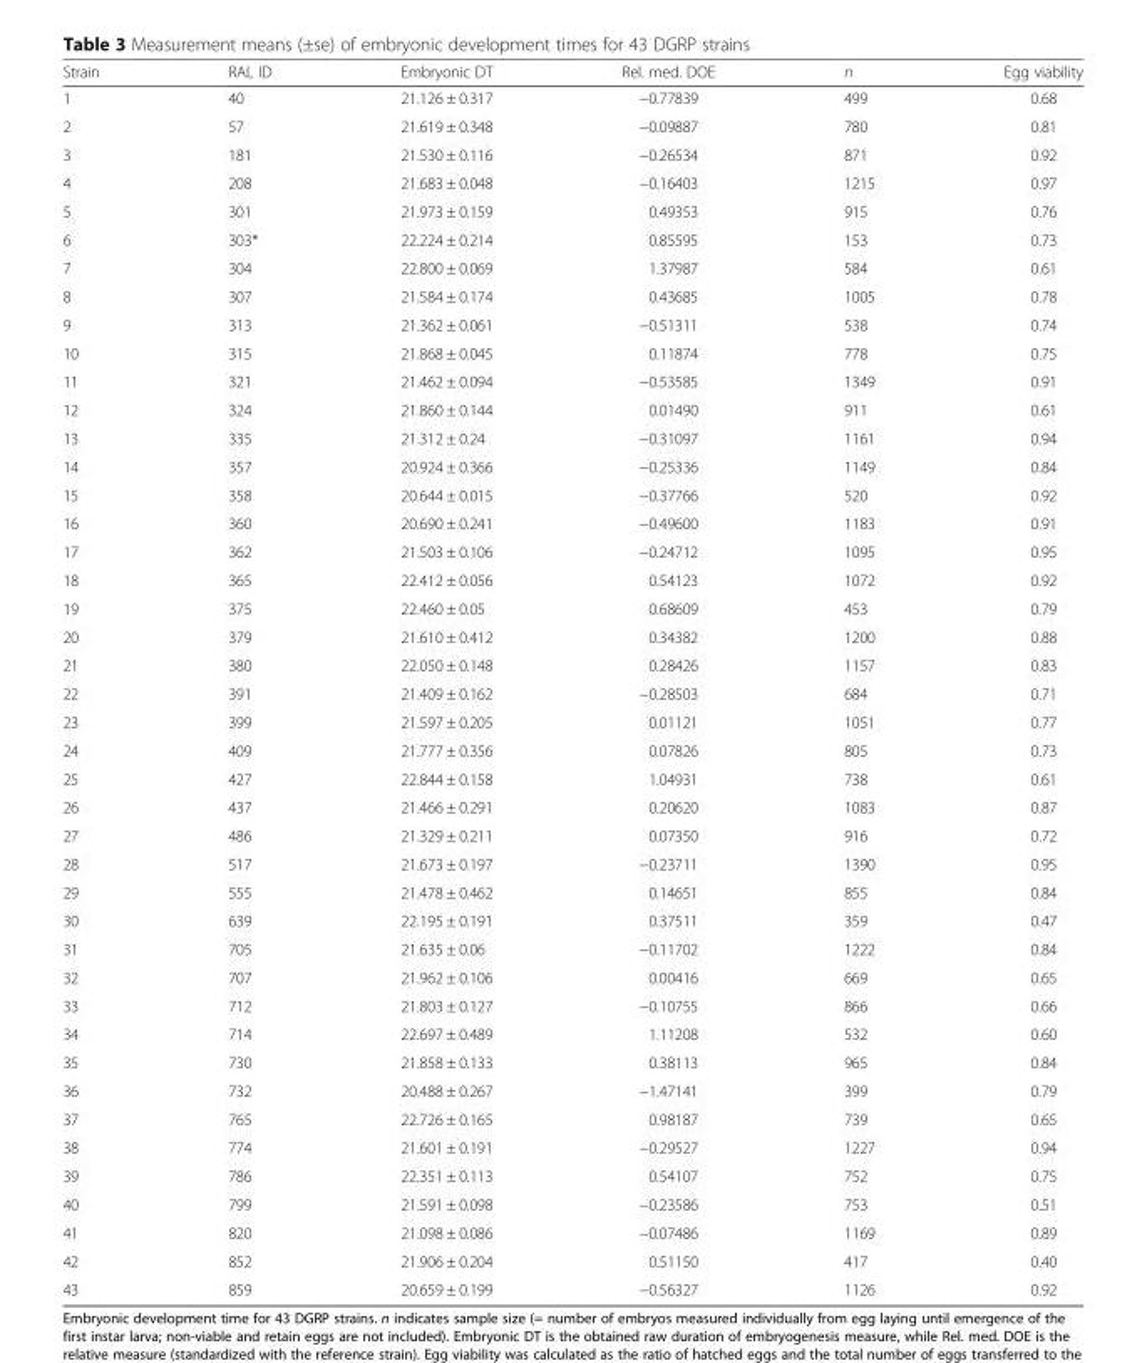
<table><thead><tr><td>Strain</td><td>RAL ID</td><td>Embryonic DT</td><td>Rel. med. DOE</td><td>n</td><td>Egg viability</td></tr></thead><tbody><tr><td>1</td><td>40</td><td>21.126 ± 0.317</td><td>−0.77839</td><td>499</td><td>0.68</td></tr><tr><td>2</td><td>57</td><td>21.619 ± 0.348</td><td>−0.09887</td><td>780</td><td>0.81</td></tr><tr><td>3</td><td>181</td><td>21.530 ± 0.116</td><td>−0.26534</td><td>871</td><td>0.92</td></tr><tr><td>4</td><td>208</td><td>21.683 ± 0.048</td><td>−0.16403</td><td>1215</td><td>0.97</td></tr><tr><td>5</td><td>301</td><td>21.973 ± 0.159</td><td>0.49353</td><td>915</td><td>0.76</td></tr><tr><td>6</td><td>303*</td><td>22.224 ± 0.214</td><td>0.85595</td><td>153</td><td>0.73</td></tr><tr><td>7</td><td>304</td><td>22.800 ± 0.069</td><td>1.37987</td><td>584</td><td>0.61</td></tr><tr><td>8</td><td>307</td><td>21.584 ± 0.174</td><td>0.43685</td><td>1005</td><td>0.78</td></tr><tr><td>9</td><td>313</td><td>21.362 ± 0.061</td><td>−0.51311</td><td>538</td><td>0.74</td></tr><tr><td>10</td><td>315</td><td>21.868 ± 0.045</td><td>0.11874</td><td>778</td><td>0.75</td></tr><tr><td>11</td><td>321</td><td>21.462 ± 0.094</td><td>−0.53585</td><td>1349</td><td>0.91</td></tr><tr><td>12</td><td>324</td><td>21.860 ± 0.144</td><td>0.01490</td><td>911</td><td>0.61</td></tr><tr><td>13</td><td>335</td><td>21.312 ± 0.24</td><td>−0.31097</td><td>1161</td><td>0.94</td></tr><tr><td>14</td><td>357</td><td>20.924 ± 0.366</td><td>−0.25336</td><td>1149</td><td>0.84</td></tr><tr><td>15</td><td>358</td><td>20.644 ± 0.015</td><td>−0.37766</td><td>520</td><td>0.92</td></tr><tr><td>16</td><td>360</td><td>20.690 ± 0.241</td><td>−0.49600</td><td>1183</td><td>0.91</td></tr><tr><td>17</td><td>362</td><td>21.503 ± 0.106</td><td>−0.24712</td><td>1095</td><td>0.95</td></tr><tr><td>18</td><td>365</td><td>22.412 ± 0.056</td><td>0.54123</td><td>1072</td><td>0.92</td></tr><tr><td>19</td><td>375</td><td>22.460 ± 0.05</td><td>0.68609</td><td>453</td><td>0.79</td></tr><tr><td>20</td><td>379</td><td>21.610 ± 0.412</td><td>0.34382</td><td>1200</td><td>0.88</td></tr><tr><td>21</td><td>380</td><td>22.050 ± 0.148</td><td>0.28426</td><td>1157</td><td>0.83</td></tr><tr><td>22</td><td>391</td><td>21.409 ± 0.162</td><td>−0.28503</td><td>684</td><td>0.71</td></tr><tr><td>23</td><td>399</td><td>21.597 ± 0.205</td><td>0.01121</td><td>1051</td><td>0.77</td></tr><tr><td>24</td><td>409</td><td>21.777 ± 0.356</td><td>0.07826</td><td>805</td><td>0.73</td></tr><tr><td>25</td><td>427</td><td>22.844 ± 0.158</td><td>1.04931</td><td>738</td><td>0.61</td></tr><tr><td>26</td><td>437</td><td>21.466 ± 0.291</td><td>0.20620</td><td>1083</td><td>0.87</td></tr><tr><td>27</td><td>486</td><td>21.329 ± 0.211</td><td>0.07350</td><td>916</td><td>0.72</td></tr><tr><td>28</td><td>517</td><td>21.673 ± 0.197</td><td>−0.23711</td><td>1390</td><td>0.95</td></tr><tr><td>29</td><td>555</td><td>21.478 ± 0.462</td><td>0.14651</td><td>855</td><td>0.84</td></tr><tr><td>30</td><td>639</td><td>22.195 ± 0.191</td><td>0.37511</td><td>359</td><td>0.47</td></tr><tr><td>31</td><td>705</td><td>21.635 ± 0.06</td><td>−0.11702</td><td>1222</td><td>0.84</td></tr><tr><td>32</td><td>707</td><td>21.962 ± 0.106</td><td>0.00416</td><td>669</td><td>0.65</td></tr><tr><td>33</td><td>712</td><td>21.803 ± 0.127</td><td>−0.10755</td><td>866</td><td>0.66</td></tr><tr><td>34</td><td>714</td><td>22.697 ± 0.489</td><td>1.11208</td><td>532</td><td>0.60</td></tr><tr><td>35</td><td>730</td><td>21.858 ± 0.133</td><td>0.38113</td><td>965</td><td>0.84</td></tr><tr><td>36</td><td>732</td><td>20.488 ± 0.267</td><td>−1.47141</td><td>399</td><td>0.79</td></tr><tr><td>37</td><td>765</td><td>22.726 ± 0.165</td><td>0.98187</td><td>739</td><td>0.65</td></tr><tr><td>38</td><td>774</td><td>21.601 ± 0.191</td><td>−0.29527</td><td>1227</td><td>0.94</td></tr><tr><td>39</td><td>786</td><td>22.351 ± 0.113</td><td>0.54107</td><td>752</td><td>0.75</td></tr><tr><td>40</td><td>799</td><td>21.591 ± 0.098</td><td>−0.23586</td><td>753</td><td>0.51</td></tr><tr><td>41</td><td>820</td><td>21.098 ± 0.086</td><td>−0.07486</td><td>1169</td><td>0.89</td></tr><tr><td>42</td><td>852</td><td>21.906 ± 0.204</td><td>0.51150</td><td>417</td><td>0.40</td></tr><tr><td>43</td><td>859</td><td>20.659 ± 0.199</td><td>−0.56327</td><td>1126</td><td>0.92</td></tr></tbody></table>